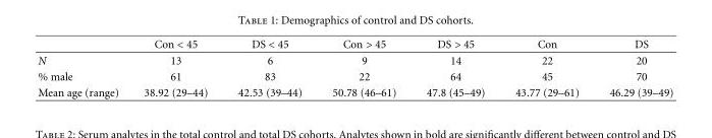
<table><thead><tr><td></td><td>Con &lt; 45</td><td>DS &lt; 45</td><td>Con &gt; 45</td><td>DS &gt; 45</td><td>Con</td><td>DS</td></tr></thead><tbody><tr><td>N</td><td>13</td><td>6</td><td>9</td><td>14</td><td>22</td><td>20</td></tr><tr><td>% male</td><td>61</td><td>83</td><td>22</td><td>64</td><td>45</td><td>70</td></tr><tr><td>Mean age (range)</td><td>38.92 (29–44)</td><td>42.53 (39–44)</td><td>50.78 (46–61)</td><td>47.8 (45–49)</td><td>43.77 (29–61)</td><td>46.29 (39–49)</td></tr></tbody></table>